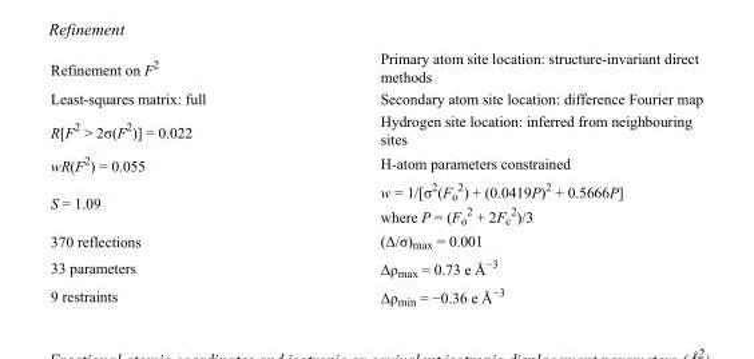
<table><tbody><tr><td>Refinement on F<sup>2</sup></td><td>Primary atom site location: structure-invariant direct methods</td></tr><tr><td>Least-squares matrix: full</td><td>Secondary atom site location: difference Fourier map</td></tr><tr><td>R[F<sup>2</sup> &gt; 2σ(F<sup>2</sup>)] = 0.022</td><td>Hydrogen site location: inferred from neighbouring sites</td></tr><tr><td>wR(F<sup>2</sup>) = 0.055</td><td>H-atom parameters constrained</td></tr><tr><td>S = 1.09</td><td>w = 1/[σ<sup>2</sup>(F<sub>o</sub> <sup>2</sup>) + (0.0419P)<sup>2</sup> + 0.5666P] where P = (F<sub>o</sub> <sup>2</sup> + 2F<sub>c</sub> <sup>2</sup>)/3</td></tr><tr><td>370 reflections</td><td>(Δ/σ)<sub>max</sub> = 0.001</td></tr><tr><td>33 parameters</td><td>Δρ<sub>max</sub> = 0.73 e Å<sup>−3</sup></td></tr><tr><td>9 restraints</td><td>Δρ<sub>min</sub> = −0.36 e Å<sup>−3</sup></td></tr></tbody></table>